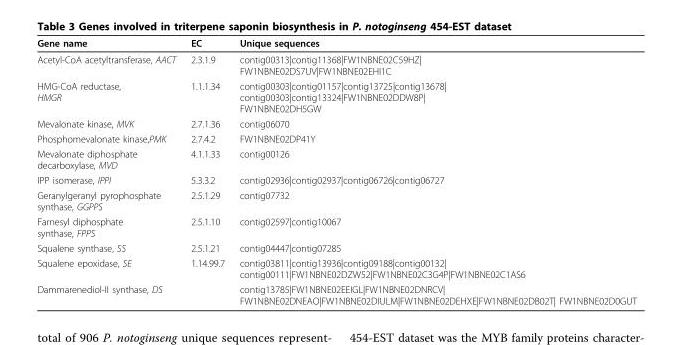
<table><thead><tr><td>Gene name</td><td>EC</td><td>Unique sequences</td></tr></thead><tbody><tr><td>Acetyl-CoA acetyltransferase, AACT</td><td>2.3.1.9</td><td>contig00313|contig11368|FW1NBNE02C59HZ| FW1NBNE02DS7UV|FW1NBNE02EHI1C</td></tr><tr><td>HMG-CoA reductase, HMGR</td><td>1.1.1.34</td><td>contig00303|contig01157|contig13725|contig13678| contig00303|contig13324|FW1NBNE02DDW8P| FW1NBNE02DH5GW</td></tr><tr><td>Mevalonate kinase, MVK</td><td>2.7.1.36</td><td>contig06070</td></tr><tr><td>Phosphomevalonate kinase,PMK</td><td>2.7.4.2</td><td>FW1NBNE02DP41Y</td></tr><tr><td>Mevalonate diphosphate decarboxylase, MVD</td><td>4.1.1.33</td><td>contig00126</td></tr><tr><td>IPP isomerase, IPPI</td><td>5.3.3.2</td><td>contig02936|contig02937|contig06726|contig06727</td></tr><tr><td>Geranylgeranyl pyrophosphate synthase, GGPPS</td><td>2.5.1.29</td><td>contig07732</td></tr><tr><td>Farnesyl diphosphate synthase, FPPS</td><td>2.5.1.10</td><td>contig02597|contig10067</td></tr><tr><td>Squalene synthase, SS</td><td>2.5.1.21</td><td>contig04447|contig07285</td></tr><tr><td>Squalene epoxidase, SE</td><td>1.14.99.7</td><td>contig03811|contig13936|contig09188|contig00132| contig00111|FW1NBNE02DZW52|FW1NBNE02C3G4P|FW1NBNE02C1AS6</td></tr><tr><td>Dammarenediol-II synthase, DS</td><td></td><td>contig13785|FW1NBNE02EEIGL|FW1NBNE02DNRCV| FW1NBNE02DNEAO|FW1NBNE02DIULM|FW1NBNE02DEHXE|FW1NBNE02DB02T| FW1NBNE02D0GUT</td></tr></tbody></table>